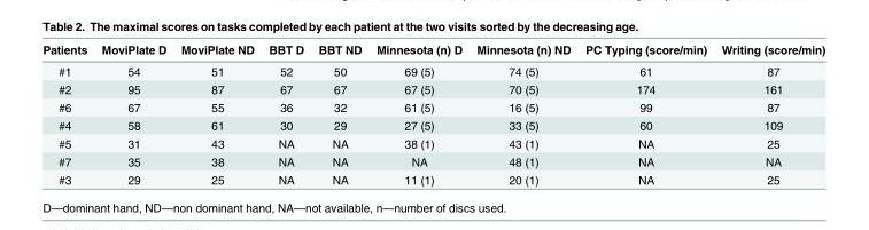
<table><thead><tr><td>Patients</td><td>MoviPlate D</td><td>MoviPlate ND</td><td>BBT D</td><td>BBT ND</td><td>Minnesota (n) D</td><td>Minnesota (n) ND</td><td>PC Typing (score/min)</td><td>Writing (score/min)</td></tr></thead><tbody><tr><td>#1</td><td>54</td><td>51</td><td>52</td><td>50</td><td>69 (5)</td><td>74 (5)</td><td>61</td><td>87</td></tr><tr><td>#2</td><td>95</td><td>87</td><td>67</td><td>67</td><td>67 (5)</td><td>70 (5)</td><td>174</td><td>161</td></tr><tr><td>#6</td><td>67</td><td>55</td><td>36</td><td>32</td><td>61 (5)</td><td>16 (5)</td><td>99</td><td>87</td></tr><tr><td>#4</td><td>58</td><td>61</td><td>30</td><td>29</td><td>27 (5)</td><td>33 (5)</td><td>60</td><td>109</td></tr><tr><td>#5</td><td>31</td><td>43</td><td>NA</td><td>NA</td><td>38 (1)</td><td>43 (1)</td><td>NA</td><td>25</td></tr><tr><td>#7</td><td>35</td><td>38</td><td>NA</td><td>NA</td><td>NA</td><td>48 (1)</td><td>NA</td><td>NA</td></tr><tr><td>#3</td><td>29</td><td>25</td><td>NA</td><td>NA</td><td>11 (1)</td><td>20 (1)</td><td>NA</td><td>25</td></tr></tbody></table>